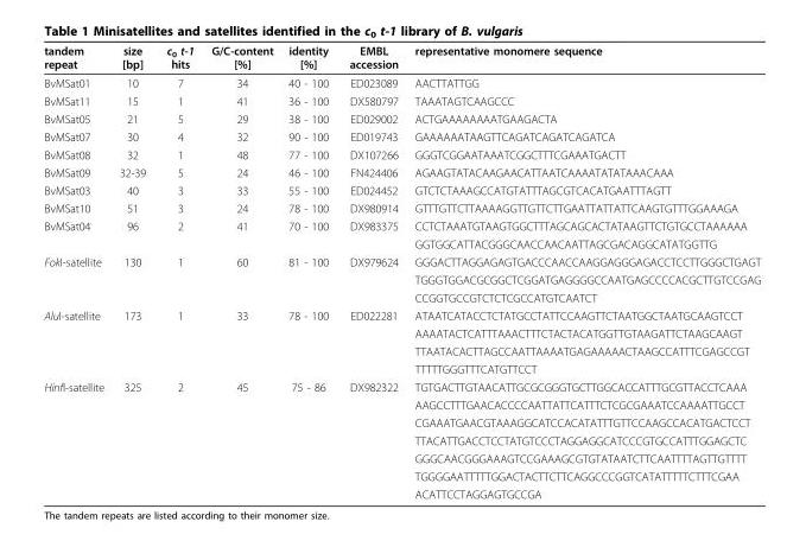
<table><thead><tr><td>tandem repeat</td><td>size [bp]</td><td>c<sub>0</sub> t-1 hits</td><td>G/C-content [%]</td><td>identity [%]</td><td>EMBL accession</td><td>representative monomere sequence</td></tr></thead><tbody><tr><td>BvMSat01</td><td>10</td><td>7</td><td>34</td><td>40 - 100</td><td>ED023089</td><td>AACTTATTGG</td></tr><tr><td>BvMSat11</td><td>15</td><td>1</td><td>41</td><td>36 - 100</td><td>DX580797</td><td>TAAATAGTCAAGCCC</td></tr><tr><td>BvMSat05</td><td>21</td><td>5</td><td>29</td><td>38 - 100</td><td>ED029002</td><td>ACTGAAAAAAAATGAAGACTA</td></tr><tr><td>BvMSat07</td><td>30</td><td>4</td><td>32</td><td>90 - 100</td><td>ED019743</td><td>GAAAAAATAAGTTCAGATCAGATCAGATCA</td></tr><tr><td>BvMSat08</td><td>32</td><td>1</td><td>48</td><td>77 - 100</td><td>DX107266</td><td>GGGTCGGAATAAATCGGCTTTCGAAATGACTT</td></tr><tr><td>BvMSat09</td><td>32-39</td><td>5</td><td>24</td><td>46 - 100</td><td>FN424406</td><td>AGAAGTATACAAGAACATTAATCAAAATATATAAACAAA</td></tr><tr><td>BvMSat03</td><td>40</td><td>3</td><td>33</td><td>55 - 100</td><td>ED024452</td><td>GTCTCTAAAGCCATGTATTTAGCGTCACATGAATTTAGTT</td></tr><tr><td>BvMSat10</td><td>51</td><td>3</td><td>24</td><td>78 - 100</td><td>DX980914</td><td>GTTTGTTCTTAAAAGGTTGTTCTTGAATTATTATTCAAGTGTTTGGAAAGA</td></tr><tr><td rowspan="2">BvMSat04</td><td>96</td><td>2</td><td>41</td><td>70 - 100</td><td>DX983375</td><td>CCTCTAAATGTAAGTGGCTTTAGCAGCACTATAAGTTCTGTGCCTAAAAAA</td></tr><tr><td></td><td></td><td></td><td></td><td></td><td>GGTGGCATTACGGGCAACCAACAATTAGCGACAGGCATATGGTTG</td></tr><tr><td rowspan="3">FokI-satellite</td><td>130</td><td>1</td><td>60</td><td>81 - 100</td><td>DX979624</td><td>GGGACTTAGGAGAGTGACCCAACCAAGGAGGGAGACCTCCTTGGGCTGAGT</td></tr><tr><td></td><td></td><td></td><td></td><td></td><td>TGGGTGGACGCGGCTCGGATGAGGGGCCAATGAGCCCCACGCTTGTCCGAG</td></tr><tr><td></td><td></td><td></td><td></td><td></td><td>CCGGTGCCGTCTCTCGCCATGTCAATCT</td></tr><tr><td rowspan="4">AluI-satellite</td><td>173</td><td>1</td><td>33</td><td>78 - 100</td><td>ED022281</td><td>ATAATCATACCTCTATGCCTATTCCAAGTTCTAATGGCTAATGCAAGTCCT</td></tr><tr><td></td><td></td><td></td><td></td><td></td><td>AAAATACTCATTTAAACTTTCTACTACATGGTTGTAAGATTCTAAGCAAGT</td></tr><tr><td></td><td></td><td></td><td></td><td></td><td>TTAATACACTTAGCCAATTAAAATGAGAAAAACTAAGCCATTTCGAGCCGT</td></tr><tr><td></td><td></td><td></td><td></td><td></td><td>TTTTTGGGTTTCATGTTCCT</td></tr><tr><td rowspan="7">HinfI-satellite</td><td>325</td><td>2</td><td>45</td><td>75 - 86</td><td>DX982322</td><td>TGTGACTTGTAACATTGCGCGGGTGCTTGGCACCATTTGCGTTACCTCAAA</td></tr><tr><td></td><td></td><td></td><td></td><td></td><td>AAGCCTTTGAACACCCCAATTATTCATTTCTCGCGAAATCCAAAATTGCCT</td></tr><tr><td></td><td></td><td></td><td></td><td></td><td>CGAAATGAACGTAAAGGCATCCACATATTTGTTCCAAGCCACATGACTCCT</td></tr><tr><td></td><td></td><td></td><td></td><td></td><td>TTACATTGACCTCCTATGTCCCTAGGAGGCATCCCGTGCCATTTGGAGCTC</td></tr><tr><td></td><td></td><td></td><td></td><td></td><td>GGGCAACGGGAAAGTCCGAAAGCGTGTATAATCTTCAATTTTAGTTGTTTT</td></tr><tr><td></td><td></td><td></td><td></td><td></td><td>TGGGGAATTTTTGGACTACTTCTTCAGGCCCGGTCATATTTTTCTTTCGAA</td></tr><tr><td></td><td></td><td></td><td></td><td></td><td>ACATTCCTAGGAGTGCCGA</td></tr></tbody></table>